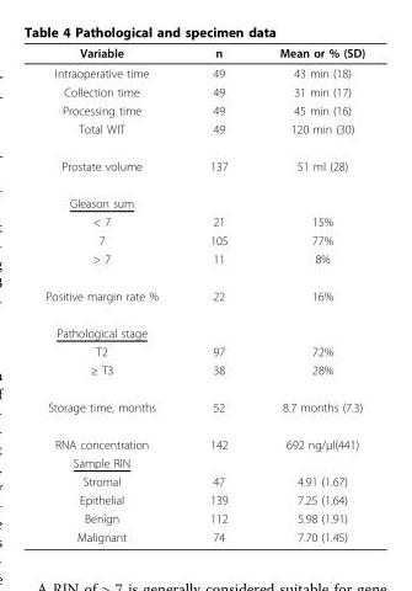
<table><thead><tr><td>Variable</td><td>n</td><td>Mean or % (SD)</td></tr></thead><tbody><tr><td>Intraoperative time</td><td>49</td><td>43 min (18)</td></tr><tr><td>Collection time</td><td>49</td><td>31 min (17)</td></tr><tr><td>Processing time</td><td>49</td><td>45 min (16)</td></tr><tr><td>Total WIT</td><td>49</td><td>120 min (30)</td></tr><tr><td>Prostate volume</td><td>137</td><td>51 ml (28)</td></tr><tr><td colspan="3">Gleason sum</td></tr><tr><td>&lt; 7</td><td>21</td><td>15%</td></tr><tr><td>7</td><td>105</td><td>77%</td></tr><tr><td>&gt; 7</td><td>11</td><td>8%</td></tr><tr><td>Positive margin rate %</td><td>22</td><td>16%</td></tr><tr><td colspan="3">Pathological stage</td></tr><tr><td>T2</td><td>97</td><td>72%</td></tr><tr><td>≥ T3</td><td>38</td><td>28%</td></tr><tr><td>Storage time, months</td><td>52</td><td>8.7 months (7.3)</td></tr><tr><td>RNA concentration</td><td>142</td><td>692 ng/μl(441)</td></tr><tr><td colspan="3">Sample RIN</td></tr><tr><td>Stromal</td><td>47</td><td>4.91 (1.67)</td></tr><tr><td>Epithelial</td><td>139</td><td>7.25 (1.64)</td></tr><tr><td>Benign</td><td>112</td><td>5.98 (1.91)</td></tr><tr><td>Malignant</td><td>74</td><td>7.70 (1.45)</td></tr></tbody></table>